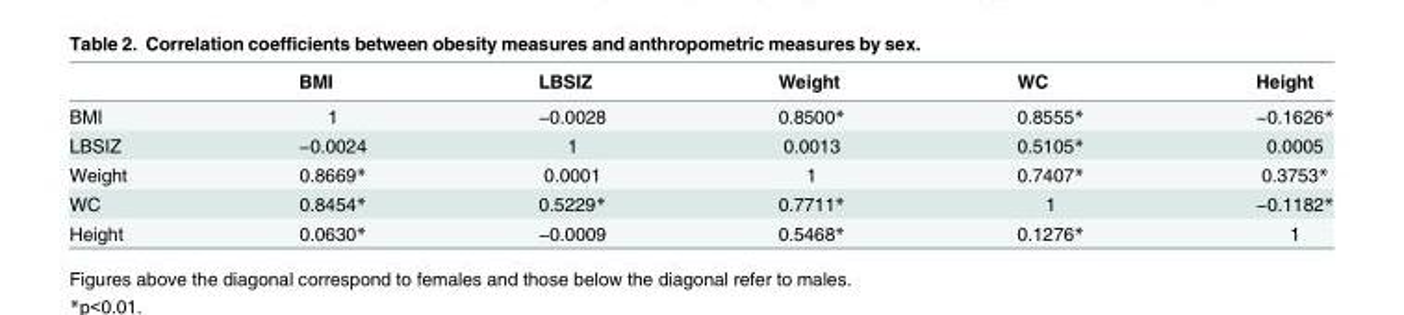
<table><thead><tr><td></td><td>BMI</td><td>LBSIZ</td><td>Weight</td><td>WC</td><td>Height</td></tr></thead><tbody><tr><td>BMI</td><td>1</td><td>−0.0028</td><td>0.8500*</td><td>0.8555*</td><td>−0.1626*</td></tr><tr><td>LBSIZ</td><td>−0.0024</td><td>1</td><td>0.0013</td><td>0.5105*</td><td>0.0005</td></tr><tr><td>Weight</td><td>0.8669*</td><td>0.0001</td><td>1</td><td>0.7407*</td><td>0.3753*</td></tr><tr><td>WC</td><td>0.8454*</td><td>0.5229*</td><td>0.7711*</td><td>1</td><td>−0.1182*</td></tr><tr><td>Height</td><td>0.0630*</td><td>−0.0009</td><td>0.5468*</td><td>0.1276*</td><td>1</td></tr></tbody></table>